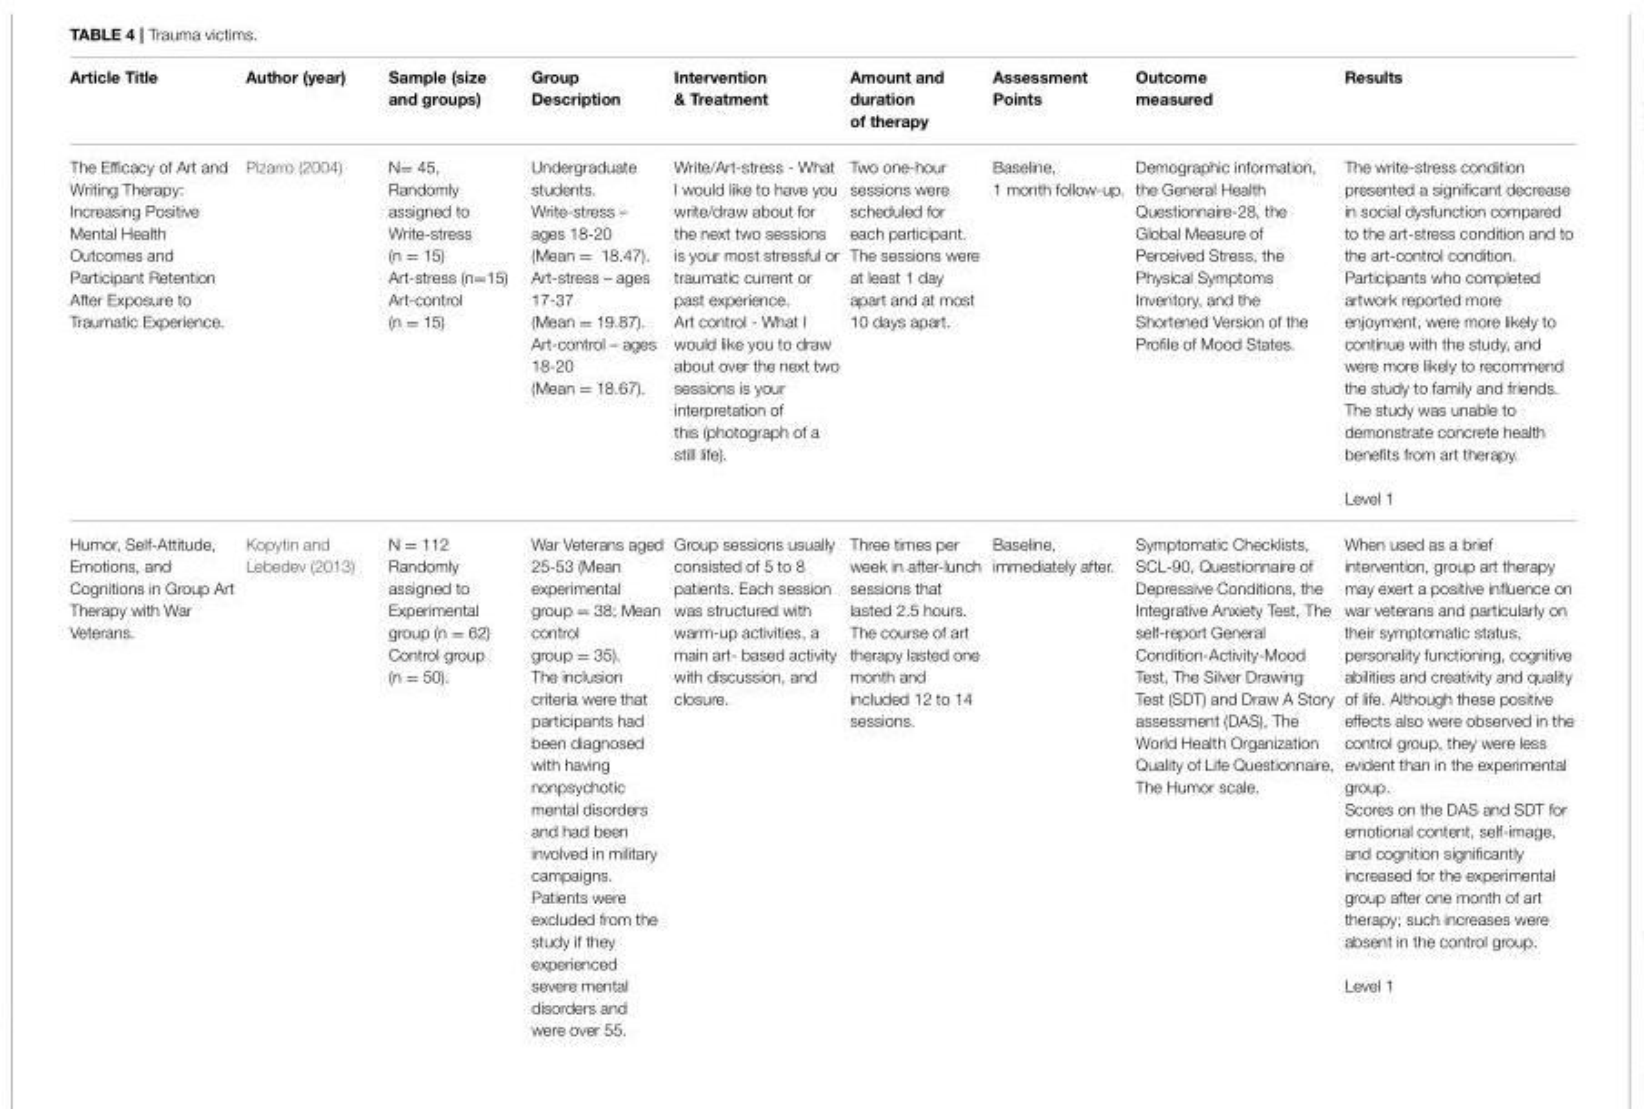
<table><thead><tr><td>Article Title</td><td>Author (year)</td><td>Sample (size and groups)</td><td>Group Description</td><td>Intervention &amp; Treatment</td><td>Amount and duration of therapy</td><td>Assessment Points</td><td>Outcome measured</td><td>Results</td></tr></thead><tbody><tr><td>The Efficacy of Art and Writing Therapy: Increasing Positive Mental Health Outcomes and Participant Retention After Exposure to Traumatic Experience.</td><td>Pizarro (2004)</td><td>N= 45, Randomly assigned to Write-stress (n = 15) Art-stress (n=15) Art-control (n = 15)</td><td>Undergraduate students. Write-stress – ages 18-20 (Mean = 18.47). Art-stress – ages 17-37 (Mean = 19.87). Art-control – ages 18-20 (Mean = 18.67).</td><td>Write/Art-stress - What I would like to have you write/draw about for the next two sessions is your most stressful or traumatic current or past experience. Art control - What I would like you to draw about over the next two sessions is your interpretation of this (photograph of a still life).</td><td>Two one-hour sessions were scheduled for each participant. The sessions were at least 1 day apart and at most 10 days apart.</td><td>Baseline, 1 month follow-up.</td><td>Demographic information, the General Health Questionnaire-28, the Global Measure of Perceived Stress, the Physical Symptoms Inventory, and the Shortened Version of the Profile of Mood States.</td><td>The write-stress condition presented a significant decrease in social dysfunction compared to the art-stress condition and to the art-control condition. Participants who completed artwork reported more enjoyment, were more likely to continue with the study, and were more likely to recommend the study to family and friends. The study was unable to demonstrate concrete health benefits from art therapy. Level 1</td></tr><tr><td>Humor, Self-Attitude, Emotions, and Cognitions in Group Art Therapy with War Veterans.</td><td>Kopytin and Lebedev (2013)</td><td>N = 112 Randomly assigned to Experimental group (n = 62) Control group (n = 50).</td><td>War Veterans aged 25-53 (Mean experimental group = 38; Mean control group = 35). The inclusion criteria were that participants had been diagnosed with having nonpsychotic mental disorders and had been involved in military campaigns. Patients were excluded from the study if they experienced severe mental disorders and were over 55.</td><td>Group sessions usually consisted of 5 to 8 patients. Each session was structured with warm-up activities, a main art- based activity with discussion, and closure.</td><td>Three times per week in after-lunch sessions that lasted 2.5 hours. The course of art therapy lasted one month and included 12 to 14 sessions.</td><td>Baseline, immediately after.</td><td>Symptomatic Checklists, SCL-90, Questionnaire of Depressive Conditions, the Integrative Anxiety Test, The self-report General Condition-Activity-Mood Test, The Silver Drawing Test (SDT) and Draw A Story assessment (DAS), The World Health Organization Quality of Life Questionnaire, The Humor scale.</td><td>When used as a brief intervention, group art therapy may exert a positive influence on war veterans and particularly on their symptomatic status, personality functioning, cognitive abilities and creativity and quality of life. Although these positive effects also were observed in the control group, they were less evident than in the experimental group. Scores on the DAS and SDT for emotional content, self-image, and cognition significantly increased for the experimental group after one month of art therapy; such increases were absent in the control group. Level 1</td></tr></tbody></table>